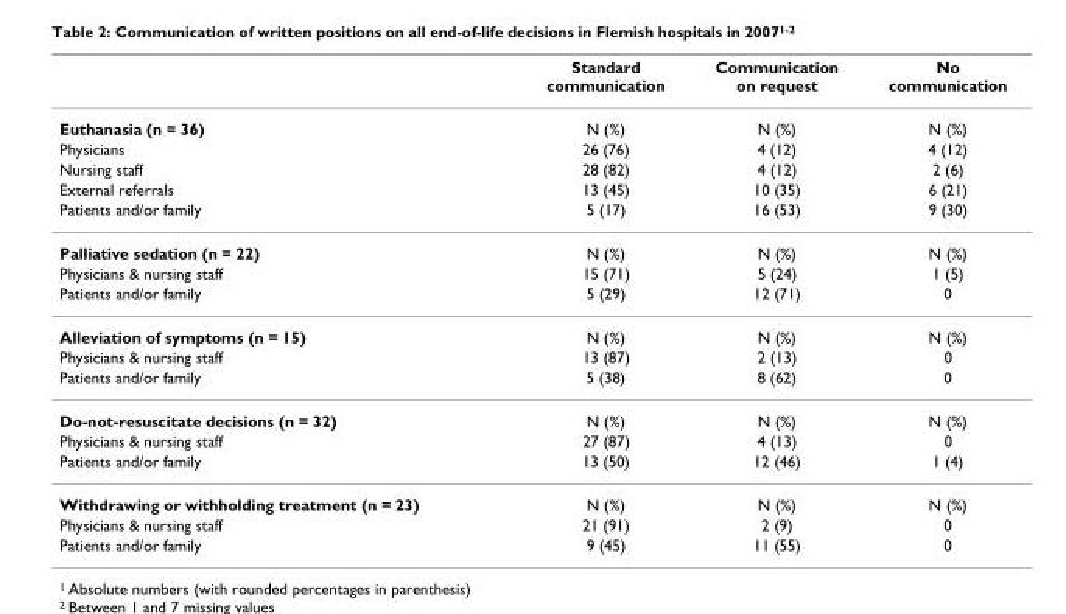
<table><thead><tr><td></td><td>Standard communication</td><td>Communication on request</td><td>No communication</td></tr></thead><tbody><tr><td>Euthanasia (n = 36)</td><td>N (%)</td><td>N (%)</td><td>N (%)</td></tr><tr><td>Physicians</td><td>26 (76)</td><td>4 (12)</td><td>4 (12)</td></tr><tr><td>Nursing staff</td><td>28 (82)</td><td>4 (12)</td><td>2 (6)</td></tr><tr><td>External referrals</td><td>13 (45)</td><td>10 (35)</td><td>6 (21)</td></tr><tr><td>Patients and/or family</td><td>5 (17)</td><td>16 (53)</td><td>9 (30)</td></tr><tr><td>Palliative sedation (n = 22)</td><td>N (%)</td><td>N (%)</td><td>N (%)</td></tr><tr><td>Physicians &amp; nursing staff</td><td>15 (71)</td><td>5 (24)</td><td>1 (5)</td></tr><tr><td>Patients and/or family</td><td>5 (29)</td><td>12 (71)</td><td>0</td></tr><tr><td>Alleviation of symptoms (n = 15)</td><td>N (%)</td><td>N (%)</td><td>N (%)</td></tr><tr><td>Physicians &amp; nursing staff</td><td>13 (87)</td><td>2 (13)</td><td>0</td></tr><tr><td>Patients and/or family</td><td>5 (38)</td><td>8 (62)</td><td>0</td></tr><tr><td>Do-not-resuscitate decisions (n = 32)</td><td>N (%)</td><td>N (%)</td><td>N (%)</td></tr><tr><td>Physicians &amp; nursing staff</td><td>27 (87)</td><td>4 (13)</td><td>0</td></tr><tr><td>Patients and/or family</td><td>13 (50)</td><td>12 (46)</td><td>1 (4)</td></tr><tr><td>Withdrawing or withholding treatment (n = 23)</td><td>N (%)</td><td>N (%)</td><td>N (%)</td></tr><tr><td>Physicians &amp; nursing staff</td><td>21 (91)</td><td>2 (9)</td><td>0</td></tr><tr><td>Patients and/or family</td><td>9 (45)</td><td>11 (55)</td><td>0</td></tr></tbody></table>